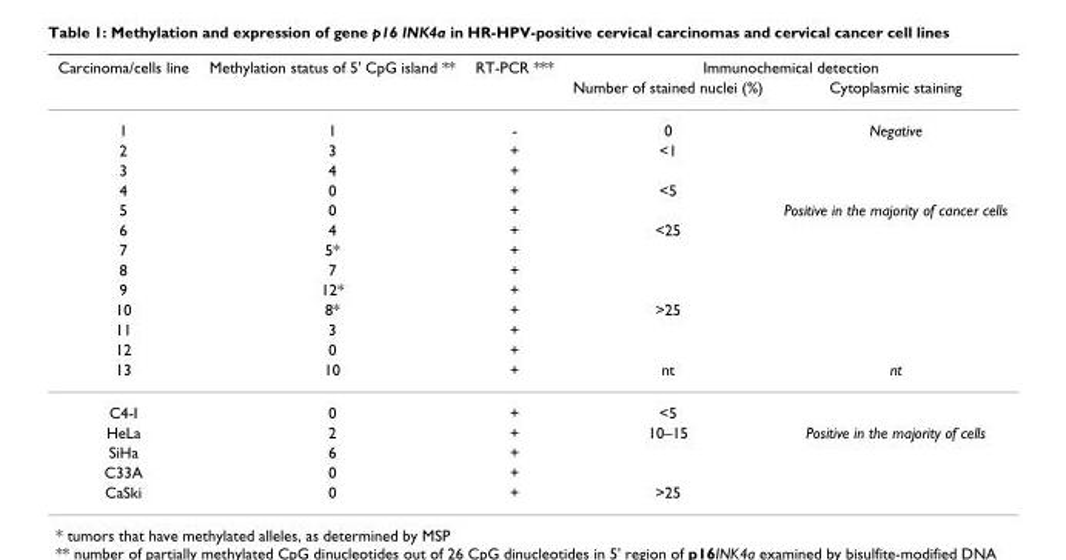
<table><thead><tr><td rowspan="2">Carcinoma/cells line</td><td rowspan="2">Methylation status of 5&#x27; CpG island **</td><td rowspan="2">RT-PCR ***</td><td colspan="2">Immunochemical detection</td></tr><tr><td>Number of stained nuclei (%)</td><td>Cytoplasmic staining</td></tr></thead><tbody><tr><td>1</td><td>1</td><td>-</td><td>0</td><td>Negative</td></tr><tr><td>2</td><td>3</td><td>+</td><td>&lt;1</td><td></td></tr><tr><td>3</td><td>4</td><td>+</td><td></td><td></td></tr><tr><td>4</td><td>0</td><td>+</td><td>&lt;5</td><td></td></tr><tr><td>5</td><td>0</td><td>+</td><td></td><td>Positive in the majority of cancer cells</td></tr><tr><td>6</td><td>4</td><td>+</td><td>&lt;25</td><td></td></tr><tr><td>7</td><td>5*</td><td>+</td><td></td><td></td></tr><tr><td>8</td><td>7</td><td>+</td><td></td><td></td></tr><tr><td>9</td><td>12*</td><td>+</td><td></td><td></td></tr><tr><td>10</td><td>8*</td><td>+</td><td>&gt;25</td><td></td></tr><tr><td>11</td><td>3</td><td>+</td><td></td><td></td></tr><tr><td>12</td><td>0</td><td>+</td><td></td><td></td></tr><tr><td>13</td><td>10</td><td>+</td><td>nt</td><td>nt</td></tr><tr><td>C4-I</td><td>0</td><td>+</td><td>&lt;5</td><td></td></tr><tr><td>HeLa</td><td>2</td><td>+</td><td>10–15</td><td>Positive in the majority of cells</td></tr><tr><td>SiHa</td><td>6</td><td>+</td><td></td><td></td></tr><tr><td>C33A</td><td>0</td><td>+</td><td></td><td></td></tr><tr><td>CaSki</td><td>0</td><td>+</td><td>&gt;25</td><td></td></tr></tbody></table>